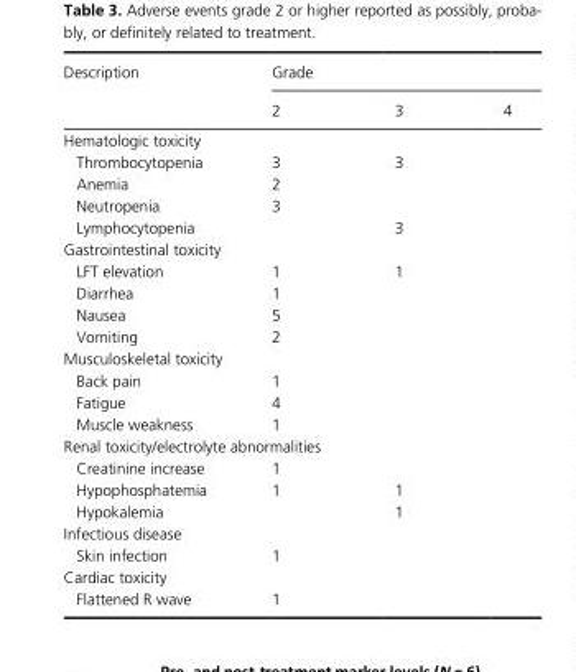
<table><thead><tr><td rowspan="2">Description</td><td colspan="3">Grade</td></tr><tr><td>2</td><td>3</td><td>4</td></tr></thead><tbody><tr><td colspan="4">Hematologic toxicity</td></tr><tr><td>Thrombocytopenia</td><td>3</td><td>3</td><td></td></tr><tr><td>Anemia</td><td>2</td><td></td><td></td></tr><tr><td>Neutropenia</td><td>3</td><td></td><td></td></tr><tr><td>Lymphocytopenia</td><td></td><td>3</td><td></td></tr><tr><td colspan="4">Gastrointestinal toxicity</td></tr><tr><td>LFT elevation</td><td>1</td><td>1</td><td></td></tr><tr><td>Diarrhea</td><td>1</td><td></td><td></td></tr><tr><td>Nausea</td><td>5</td><td></td><td></td></tr><tr><td>Vomiting</td><td>2</td><td></td><td></td></tr><tr><td colspan="4">Musculoskeletal toxicity</td></tr><tr><td>Back pain</td><td>1</td><td></td><td></td></tr><tr><td>Fatigue</td><td>4</td><td></td><td></td></tr><tr><td>Muscle weakness</td><td>1</td><td></td><td></td></tr><tr><td colspan="4">Renal toxicity/electrolyte abnormalities</td></tr><tr><td>Creatinine increase</td><td>1</td><td></td><td></td></tr><tr><td>Hypophosphatemia</td><td>1</td><td>1</td><td></td></tr><tr><td>Hypokalemia</td><td></td><td>1</td><td></td></tr><tr><td colspan="4">Infectious disease</td></tr><tr><td>Skin infection</td><td>1</td><td></td><td></td></tr><tr><td colspan="4">Cardiac toxicity</td></tr><tr><td>Flattened R wave</td><td>1</td><td></td><td></td></tr></tbody></table>